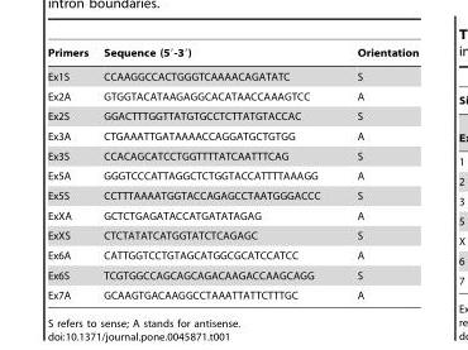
<table><thead><tr><td>Primers</td><td>Sequence (5′-3′)</td><td>Orientation</td></tr></thead><tbody><tr><td>Ex1S</td><td>CCAAGGCCACTGGGTCAAAACAGATATC</td><td>S</td></tr><tr><td>Ex2A</td><td>GTGGTACATAAGAGGCACATAACCAAAGTCC</td><td>A</td></tr><tr><td>Ex2S</td><td>GGACTTTGGTTATGTGCCTCTTATGTACCAC</td><td>S</td></tr><tr><td>Ex3A</td><td>CTGAAATTGATAAAACCAGGATGCTGTGG</td><td>A</td></tr><tr><td>Ex3S</td><td>CCACAGCATCCTGGTTTTATCAATTTCAG</td><td>S</td></tr><tr><td>Ex5A</td><td>GGGTCCCATTAGGCTCTGGTACCATTTTAAAGG</td><td>A</td></tr><tr><td>Ex5S</td><td>CCTTTAAAATGGTACCAGAGCCTAATGGGACCC</td><td>S</td></tr><tr><td>ExXA</td><td>GCTCTGAGATACCATGATATAGAG</td><td>A</td></tr><tr><td>ExXS</td><td>CTCTATATCATGGTATCTCAGAGC</td><td>S</td></tr><tr><td>Ex6A</td><td>CATTGGTCCTGTAGCATGGCGCATCCATCC</td><td>A</td></tr><tr><td>Ex6S</td><td>TCGTGGCCAGCAGCAGACAAGACCAAGCAGG</td><td>S</td></tr><tr><td>Ex7A</td><td>GCAAGTGACAAGGCCTAAATTATTCTTTGC</td><td>A</td></tr></tbody></table>